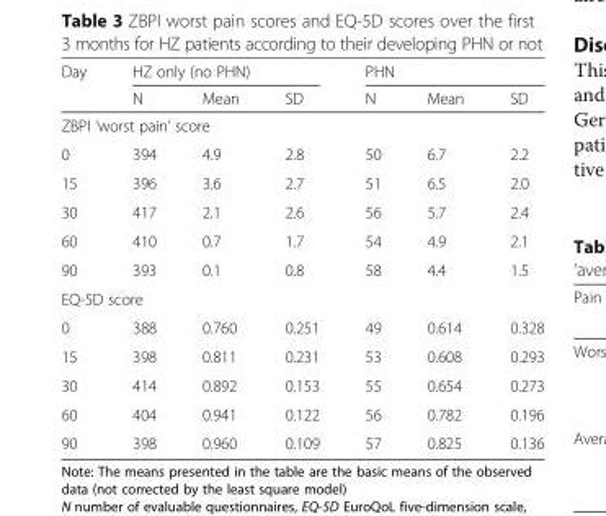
<table><thead><tr><td rowspan="2">Day</td><td colspan="3">HZ only (no PHN)</td><td colspan="3">PHN</td></tr><tr><td>N</td><td>Mean</td><td>SD</td><td>N</td><td>Mean</td><td>SD</td></tr></thead><tbody><tr><td colspan="7">ZBPI ‘worst pain’ score</td></tr><tr><td>0</td><td>394</td><td>4.9</td><td>2.8</td><td>50</td><td>6.7</td><td>2.2</td></tr><tr><td>15</td><td>396</td><td>3.6</td><td>2.7</td><td>51</td><td>6.5</td><td>2.0</td></tr><tr><td>30</td><td>417</td><td>2.1</td><td>2.6</td><td>56</td><td>5.7</td><td>2.4</td></tr><tr><td>60</td><td>410</td><td>0.7</td><td>1.7</td><td>54</td><td>4.9</td><td>2.1</td></tr><tr><td>90</td><td>393</td><td>0.1</td><td>0.8</td><td>58</td><td>4.4</td><td>1.5</td></tr><tr><td colspan="7">EQ-5D score</td></tr><tr><td>0</td><td>388</td><td>0.760</td><td>0.251</td><td>49</td><td>0.614</td><td>0.328</td></tr><tr><td>15</td><td>398</td><td>0.811</td><td>0.231</td><td>53</td><td>0.608</td><td>0.293</td></tr><tr><td>30</td><td>414</td><td>0.892</td><td>0.153</td><td>55</td><td>0.654</td><td>0.273</td></tr><tr><td>60</td><td>404</td><td>0.941</td><td>0.122</td><td>56</td><td>0.782</td><td>0.196</td></tr><tr><td>90</td><td>398</td><td>0.960</td><td>0.109</td><td>57</td><td>0.825</td><td>0.136</td></tr></tbody></table>